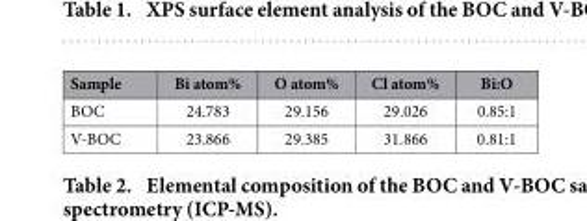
<table><thead><tr><td>Sample</td><td>Bi atom%</td><td>O atom%</td><td>Cl atom%</td><td>Bi:O</td></tr></thead><tbody><tr><td>BOC</td><td>24.783</td><td>29.156</td><td>29.026</td><td>0.85:1</td></tr><tr><td>V-BOC</td><td>23.866</td><td>29.385</td><td>31.866</td><td>0.81:1</td></tr></tbody></table>